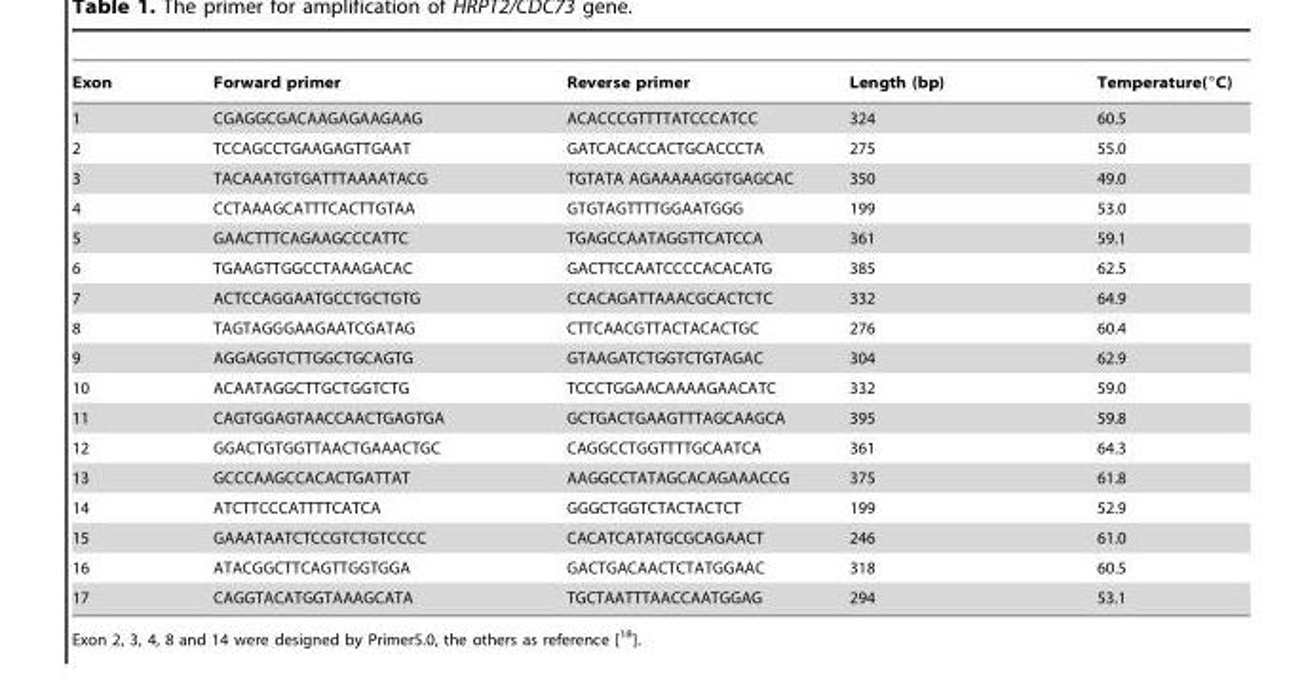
<table><thead><tr><td>Exon</td><td>Forward primer</td><td>Reverse primer</td><td>Length (bp)</td><td>Temperature(°C)</td></tr></thead><tbody><tr><td>1</td><td>CGAGGCGACAAGAGAAGAAG</td><td>ACACCCGTTTTATCCCATCC</td><td>324</td><td>60.5</td></tr><tr><td>2</td><td>TCCAGCCTGAAGAGTTGAAT</td><td>GATCACACCACTGCACCCTA</td><td>275</td><td>55.0</td></tr><tr><td>3</td><td>TACAAATGTGATTTAAAATACG</td><td>TGTATA AGAAAAAGGTGAGCAC</td><td>350</td><td>49.0</td></tr><tr><td>4</td><td>CCTAAAGCATTTCACTTGTAA</td><td>GTGTAGTTTTGGAATGGG</td><td>199</td><td>53.0</td></tr><tr><td>5</td><td>GAACTTTCAGAAGCCCATTC</td><td>TGAGCCAATAGGTTCATCCA</td><td>361</td><td>59.1</td></tr><tr><td>6</td><td>TGAAGTTGGCCTAAAGACAC</td><td>GACTTCCAATCCCCACACATG</td><td>385</td><td>62.5</td></tr><tr><td>7</td><td>ACTCCAGGAATGCCTGCTGTG</td><td>CCACAGATTAAACGCACTCTC</td><td>332</td><td>64.9</td></tr><tr><td>8</td><td>TAGTAGGGAAGAATCGATAG</td><td>CTTCAACGTTACTACACTGC</td><td>276</td><td>60.4</td></tr><tr><td>9</td><td>AGGAGGTCTTGGCTGCAGTG</td><td>GTAAGATCTGGTCTGTAGAC</td><td>304</td><td>62.9</td></tr><tr><td>10</td><td>ACAATAGGCTTGCTGGTCTG</td><td>TCCCTGGAACAAAAGAACATC</td><td>332</td><td>59.0</td></tr><tr><td>11</td><td>CAGTGGAGTAACCAACTGAGTGA</td><td>GCTGACTGAAGTTTAGCAAGCA</td><td>395</td><td>59.8</td></tr><tr><td>12</td><td>GGACTGTGGTTAACTGAAACTGC</td><td>CAGGCCTGGTTTTGCAATCA</td><td>361</td><td>64.3</td></tr><tr><td>13</td><td>GCCCAAGCCACACTGATTAT</td><td>AAGGCCTATAGCACAGAAACCG</td><td>375</td><td>61.8</td></tr><tr><td>14</td><td>ATCTTCCCATTTTCATCA</td><td>GGGCTGGTCTACTACTCT</td><td>199</td><td>52.9</td></tr><tr><td>15</td><td>GAAATAATCTCCGTCTGTCCCC</td><td>CACATCATATGCGCAGAACT</td><td>246</td><td>61.0</td></tr><tr><td>16</td><td>ATACGGCTTCAGTTGGTGGA</td><td>GACTGACAACTCTATGGAAC</td><td>318</td><td>60.5</td></tr><tr><td>17</td><td>CAGGTACATGGTAAAGCATA</td><td>TGCTAATTTAACCAATGGAG</td><td>294</td><td>53.1</td></tr></tbody></table>